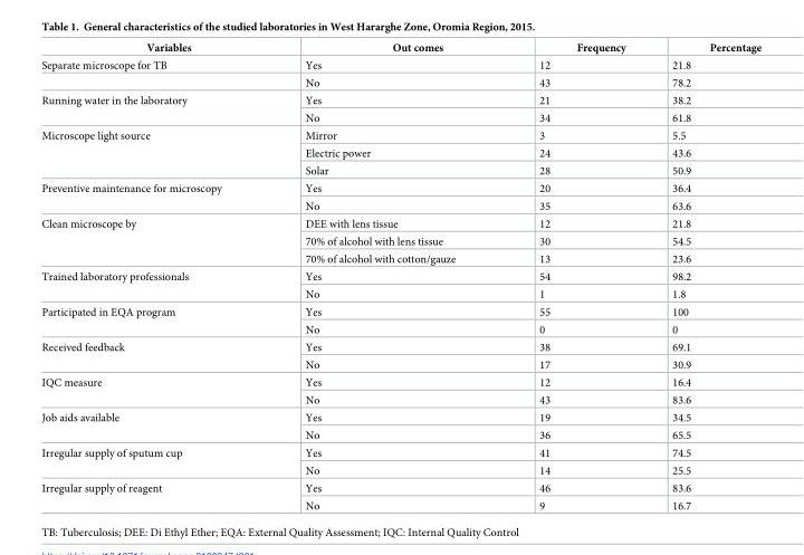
<table><thead><tr><td>Variables</td><td>Out comes</td><td>Frequency</td><td>Percentage</td></tr></thead><tbody><tr><td rowspan="2">Separate microscope for TB</td><td>Yes</td><td>12</td><td>21.8</td></tr><tr><td>No</td><td>43</td><td>78.2</td></tr><tr><td rowspan="2">Running water in the laboratory</td><td>Yes</td><td>21</td><td>38.2</td></tr><tr><td>No</td><td>34</td><td>61.8</td></tr><tr><td rowspan="3">Microscope light source</td><td>Mirror</td><td>3</td><td>5.5</td></tr><tr><td>Electric power</td><td>24</td><td>43.6</td></tr><tr><td>Solar</td><td>28</td><td>50.9</td></tr><tr><td rowspan="2">Preventive maintenance for microscopy</td><td>Yes</td><td>20</td><td>36.4</td></tr><tr><td>No</td><td>35</td><td>63.6</td></tr><tr><td rowspan="3">Clean microscope by</td><td>DEE with lens tissue</td><td>12</td><td>21.8</td></tr><tr><td>70% of alcohol with lens tissue</td><td>30</td><td>54.5</td></tr><tr><td>70% of alcohol with cotton/gauze</td><td>13</td><td>23.6</td></tr><tr><td rowspan="2">Trained laboratory professionals</td><td>Yes</td><td>54</td><td>98.2</td></tr><tr><td>No</td><td>1</td><td>1.8</td></tr><tr><td rowspan="2">Participated in EQA program</td><td>Yes</td><td>55</td><td>100</td></tr><tr><td>No</td><td>0</td><td>0</td></tr><tr><td rowspan="2">Received feedback</td><td>Yes</td><td>38</td><td>69.1</td></tr><tr><td>No</td><td>17</td><td>30.9</td></tr><tr><td rowspan="2">IQC measure</td><td>Yes</td><td>12</td><td>16.4</td></tr><tr><td>No</td><td>43</td><td>83.6</td></tr><tr><td rowspan="2">Job aids available</td><td>Yes</td><td>19</td><td>34.5</td></tr><tr><td>No</td><td>36</td><td>65.5</td></tr><tr><td rowspan="2">Irregular supply of sputum cup</td><td>Yes</td><td>41</td><td>74.5</td></tr><tr><td>No</td><td>14</td><td>25.5</td></tr><tr><td rowspan="2">Irregular supply of reagent</td><td>Yes</td><td>46</td><td>83.6</td></tr><tr><td>No</td><td>9</td><td>16.7</td></tr></tbody></table>